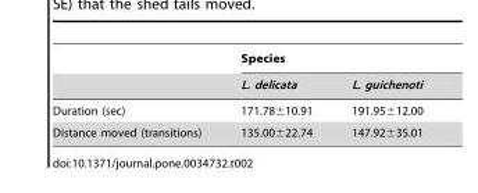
<table><thead><tr><td rowspan="2"></td><td colspan="2">Species</td></tr><tr><td>L. delicata</td><td>L. guichenoti</td></tr></thead><tbody><tr><td>Duration (sec)</td><td>171.78±10.91</td><td>191.95±12.00</td></tr><tr><td>Distance moved (transitions)</td><td>135.00±22.74</td><td>147.92±35.01</td></tr></tbody></table>